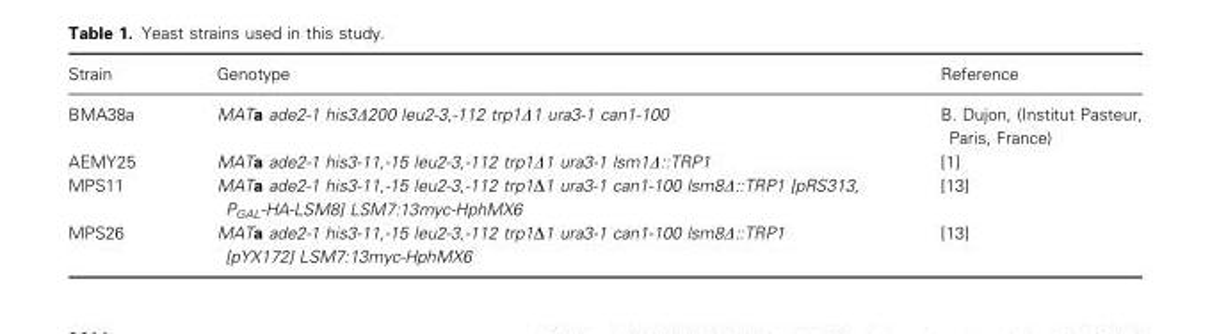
<table><thead><tr><td>Strain</td><td>Genotype</td><td>Reference</td></tr></thead><tbody><tr><td>BMA38a</td><td>MATa ade2-1 his3Δ200 leu2-3,-112 trp1Δ1 ura3-1 can1-100</td><td>B. Dujon, (Institut Pasteur, Paris, France)</td></tr><tr><td>AEMY25</td><td>MATa ade2-1 his3-11,-15 leu2-3,-112 trp1Δ1 ura3-1 lsm1Δ::TRP1</td><td>[1]</td></tr><tr><td>MPS11</td><td>MATa ade2-1 his3-11,-15 leu2-3,-112 trp1Δ1 ura3-1 can1-100 lsm8Δ::TRP1 [pRS313, P<sub>GAL</sub>-HA-LSM8] LSM7:13myc-HphMX6</td><td>[13]</td></tr><tr><td>MPS26</td><td>MATa ade2-1 his3-11,-15 leu2-3,-112 trp1Δ1 ura3-1 can1-100 lsm8Δ::TRP1 [pYX172] LSM7:13myc-HphMX6</td><td>[13]</td></tr></tbody></table>